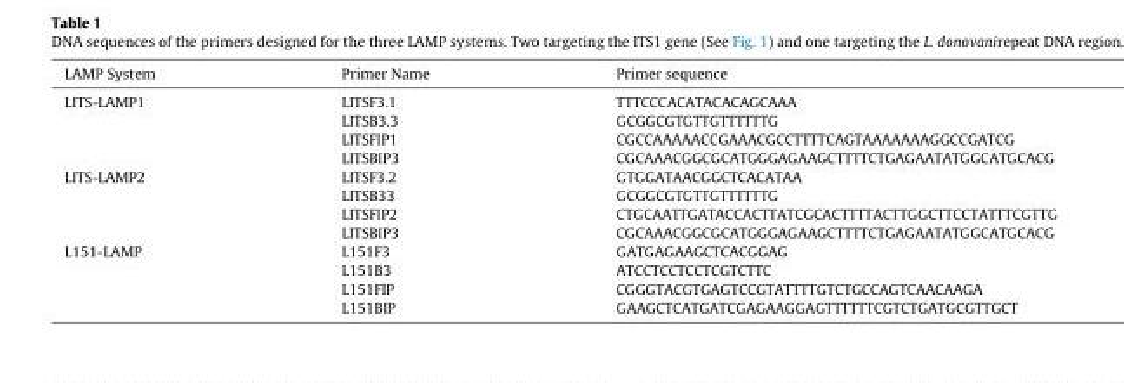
<table><thead><tr><td>LAMP System</td><td>Primer Name</td><td>Primer sequence</td></tr></thead><tbody><tr><td rowspan="4">LITS-LAMP1</td><td>LITSF3.1</td><td>TTTCCCACATACACAGCAAA</td></tr><tr><td>LITSB3.3</td><td>GCGGCGTGTTGTTTTTTG</td></tr><tr><td>LITSFIP1</td><td>CGCCAAAAACCGAAACGCCTTTTCAGTAAAAAAAGGCCGATCG</td></tr><tr><td>LITSBIP3</td><td>CGCAAACGGCGCATGGGAGAAGCTTTTCTGAGAATATGGCATGCACG</td></tr><tr><td rowspan="4">LITS-LAMP2</td><td>LITSF3.2</td><td>GTGGATAACGGCTCACATAA</td></tr><tr><td>LITSB33</td><td>GCGGCGTGTTGTTTTTTG</td></tr><tr><td>LITSFIP2</td><td>CTGCAATTGATACCACTTATCGCACTTTTACTTGGCTTCCTATTTCGTTG</td></tr><tr><td>LITSBIP3</td><td>CGCAAACGGCGCATGGGAGAAGCTTTTCTGAGAATATGGCATGCACG</td></tr><tr><td rowspan="4">L151-LAMP</td><td>L151F3</td><td>GATGAGAAGCTCACGGAG</td></tr><tr><td>L151B3</td><td>ATCCTCCTCCTCGTCTTC</td></tr><tr><td>L151FIP</td><td>CGGGTACGTGAGTCCGTATTTTGTCTGCCAGTCAACAAGA</td></tr><tr><td>L151BIP</td><td>GAAGCTCATGATCGAGAAGGAGTTTTTTCGTCTGATGCGTTGCT</td></tr></tbody></table>